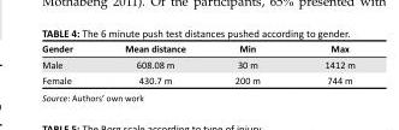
<table><thead><tr><td>Gender</td><td>Mean distance</td><td>Min</td><td>Max</td></tr></thead><tbody><tr><td>Male</td><td>608.08 m</td><td>30 m</td><td>1412 m</td></tr><tr><td>Female</td><td>430.7 m</td><td>200 m</td><td>744 m</td></tr></tbody></table>